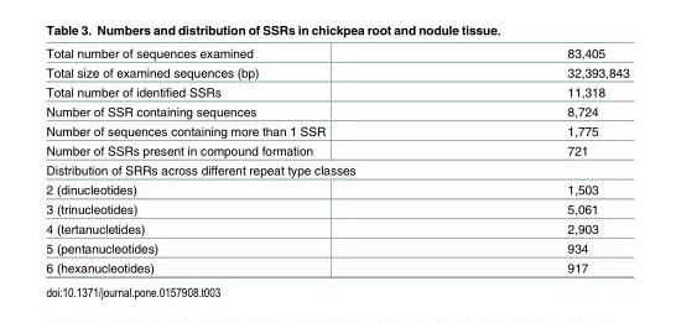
<table><tbody><tr><td>Total number of sequences examined</td><td>83,405</td></tr><tr><td>Total size of examined sequences (bp)</td><td>32,393,843</td></tr><tr><td>Total number of identified SSRs</td><td>11,318</td></tr><tr><td>Number of SSR containing sequences</td><td>8,724</td></tr><tr><td>Number of sequences containing more than 1 SSR</td><td>1,775</td></tr><tr><td>Number of SSRs present in compound formation</td><td>721</td></tr><tr><td colspan="2">Distribution of SRRs across different repeat type classes</td></tr><tr><td>2 (dinucleotides)</td><td>1,503</td></tr><tr><td>3 (trinucleotides)</td><td>5,061</td></tr><tr><td>4 (tertanucletides)</td><td>2,903</td></tr><tr><td>5 (pentanucleotides)</td><td>934</td></tr><tr><td>6 (hexanucleotides)</td><td>917</td></tr></tbody></table>